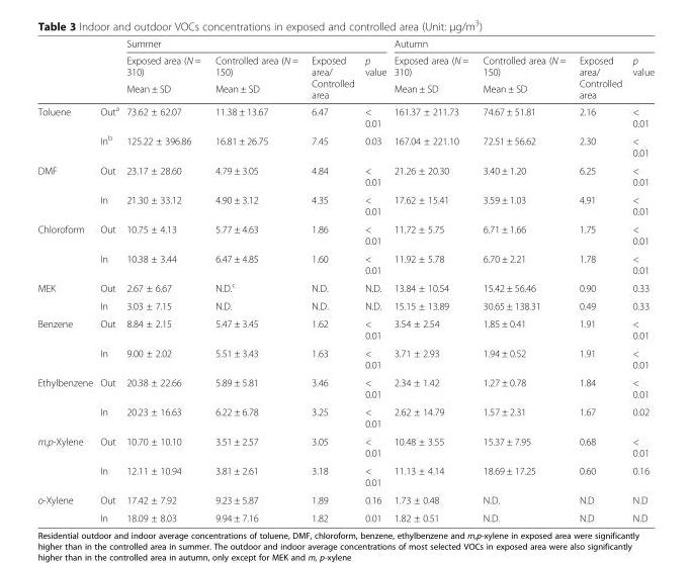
<table><thead><tr><td rowspan="3"></td><td rowspan="3"></td><td colspan="4">Summer</td><td colspan="4">Autumn</td></tr><tr><td rowspan="2">Exposed area (N = 310) Mean ± SD</td><td rowspan="2">Controlled area (N = 150) Mean ± SD</td><td rowspan="2">Exposed area/ Controlled area</td><td rowspan="2">p value</td><td rowspan="2">Exposed area (N = 310) Mean ± SD</td><td rowspan="2">Controlled area (N = 150) Mean ± SD</td><td rowspan="2">Exposed area/ Controlled area</td><td rowspan="2">p value</td></tr><tr></tr></thead><tbody><tr><td rowspan="2">Toluene</td><td>Out<sup>a</sup></td><td>73.62 ± 62.07</td><td>11.38 ± 13.67</td><td>6.47</td><td>&lt; 0.01</td><td>161.37 ± 211.73</td><td>74.67 ± 51.81</td><td>2.16</td><td>&lt; 0.01</td></tr><tr><td>In<sup>b</sup></td><td>125.22 ± 396.86</td><td>16.81 ± 26.75</td><td>7.45</td><td>0.03</td><td>167.04 ± 221.10</td><td>72.51 ± 56.62</td><td>2.30</td><td>&lt; 0.01</td></tr><tr><td rowspan="2">DMF</td><td>Out</td><td>23.17 ± 28.60</td><td>4.79 ± 3.05</td><td>4.84</td><td>&lt; 0.01</td><td>21.26 ± 20.30</td><td>3.40 ± 1.20</td><td>6.25</td><td>&lt; 0.01</td></tr><tr><td>In</td><td>21.30 ± 33.12</td><td>4.90 ± 3.12</td><td>4.35</td><td>&lt; 0.01</td><td>17.62 ± 15.41</td><td>3.59 ± 1.03</td><td>4.91</td><td>&lt; 0.01</td></tr><tr><td rowspan="2">Chloroform</td><td>Out</td><td>10.75 ± 4.13</td><td>5.77 ± 4.63</td><td>1.86</td><td>&lt; 0.01</td><td>11.72 ± 5.75</td><td>6.71 ± 1.66</td><td>1.75</td><td>&lt; 0.01</td></tr><tr><td>In</td><td>10.38 ± 3.44</td><td>6.47 ± 4.85</td><td>1.60</td><td>&lt; 0.01</td><td>11.92 ± 5.78</td><td>6.70 ± 2.21</td><td>1.78</td><td>&lt; 0.01</td></tr><tr><td rowspan="2">MEK</td><td>Out</td><td>2.67 ± 6.67</td><td>N.D.<sup>c</sup></td><td>N.D.</td><td>N.D.</td><td>13.84 ± 10.54</td><td>15.42 ± 56.46</td><td>0.90</td><td>0.33</td></tr><tr><td>In</td><td>3.03 ± 7.15</td><td>N.D.</td><td>N.D.</td><td>N.D.</td><td>15.15 ± 13.89</td><td>30.65 ± 138.31</td><td>0.49</td><td>0.33</td></tr><tr><td rowspan="2">Benzene</td><td>Out</td><td>8.84 ± 2.15</td><td>5.47 ± 3.45</td><td>1.62</td><td>&lt; 0.01</td><td>3.54 ± 2.54</td><td>1.85 ± 0.41</td><td>1.91</td><td>&lt; 0.01</td></tr><tr><td>In</td><td>9.00 ± 2.02</td><td>5.51 ± 3.43</td><td>1.63</td><td>&lt; 0.01</td><td>3.71 ± 2.93</td><td>1.94 ± 0.52</td><td>1.91</td><td>&lt; 0.01</td></tr><tr><td rowspan="2">Ethylbenzene</td><td>Out</td><td>20.38 ± 22.66</td><td>5.89 ± 5.81</td><td>3.46</td><td>&lt; 0.01</td><td>2.34 ± 1.42</td><td>1.27 ± 0.78</td><td>1.84</td><td>&lt; 0.01</td></tr><tr><td>In</td><td>20.23 ± 16.63</td><td>6.22 ± 6.78</td><td>3.25</td><td>&lt; 0.01</td><td>2.62 ± 14.79</td><td>1.57 ± 2.31</td><td>1.67</td><td>0.02</td></tr><tr><td rowspan="2">m,p-Xylene</td><td>Out</td><td>10.70 ± 10.10</td><td>3.51 ± 2.57</td><td>3.05</td><td>&lt; 0.01</td><td>10.48 ± 3.55</td><td>15.37 ± 7.95</td><td>0.68</td><td>&lt; 0.01</td></tr><tr><td>In</td><td>12.11 ± 10.94</td><td>3.81 ± 2.61</td><td>3.18</td><td>&lt; 0.01</td><td>11.13 ± 4.14</td><td>18.69 ± 17.25</td><td>0.60</td><td>0.16</td></tr><tr><td rowspan="2">o-Xylene</td><td>Out</td><td>17.42 ± 7.92</td><td>9.23 ± 5.87</td><td>1.89</td><td>0.16</td><td>1.73 ± 0.48</td><td>N.D.</td><td>N.D</td><td>N.D</td></tr><tr><td>In</td><td>18.09 ± 8.03</td><td>9.94 ± 7.16</td><td>1.82</td><td>0.01</td><td>1.82 ± 0.51</td><td>N.D.</td><td>N.D</td><td>N.D</td></tr></tbody></table>